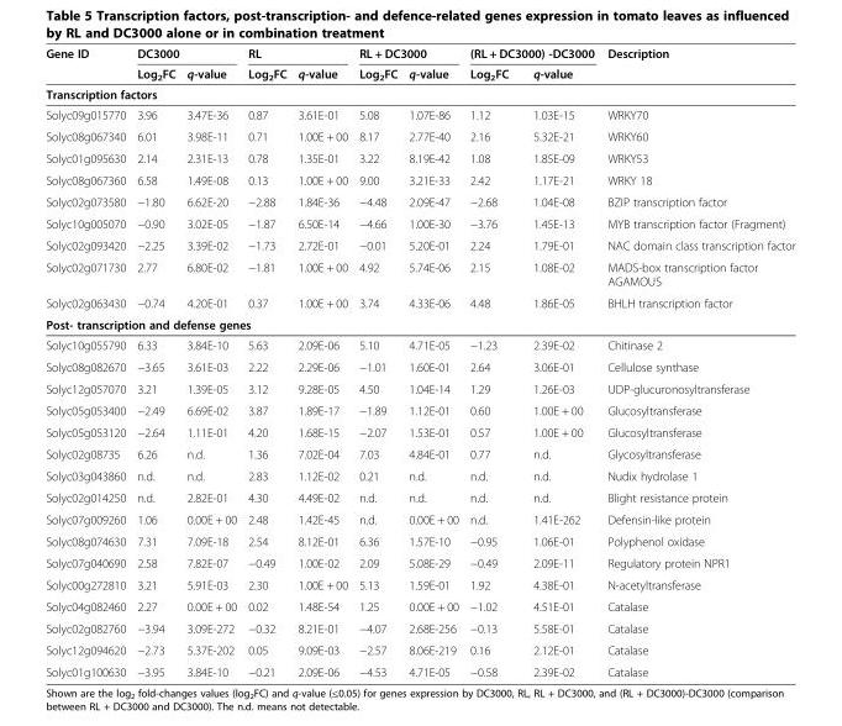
<table><thead><tr><td rowspan="2">Gene ID</td><td colspan="2">DC3000</td><td colspan="2">RL</td><td colspan="2">RL + DC3000</td><td colspan="2">(RL + DC3000) -DC3000</td><td rowspan="2">Description</td></tr><tr><td>Log<sub>2</sub>FC</td><td>q-value</td><td>Log<sub>2</sub>FC</td><td>q-value</td><td>Log<sub>2</sub>FC</td><td>q-value</td><td>Log<sub>2</sub>FC</td><td>q-value</td></tr></thead><tbody><tr><td colspan="10">Transcription factors</td></tr><tr><td>Solyc09g015770</td><td>3.96</td><td>3.47E-36</td><td>0.87</td><td>3.61E-01</td><td>5.08</td><td>1.07E-86</td><td>1.12</td><td>1.03E-15</td><td>WRKY70</td></tr><tr><td>Solyc08g067340</td><td>6.01</td><td>3.98E-11</td><td>0.71</td><td>1.00E + 00</td><td>8.17</td><td>2.77E-40</td><td>2.16</td><td>5.32E-21</td><td>WRKY60</td></tr><tr><td>Solyc01g095630</td><td>2.14</td><td>2.31E-13</td><td>0.78</td><td>1.35E-01</td><td>3.22</td><td>8.19E-42</td><td>1.08</td><td>1.85E-09</td><td>WRKY53</td></tr><tr><td>Solyc08g067360</td><td>6.58</td><td>1.49E-08</td><td>0.13</td><td>1.00E + 00</td><td>9.00</td><td>3.21E-33</td><td>2.42</td><td>1.17E-21</td><td>WRKY 18</td></tr><tr><td>Solyc02g073580</td><td>−1.80</td><td>6.62E-20</td><td>−2.88</td><td>1.84E-36</td><td>−4.48</td><td>2.09E-47</td><td>−2.68</td><td>1.04E-08</td><td>BZIP transcription factor</td></tr><tr><td>Solyc10g005070</td><td>−0.90</td><td>3.02E-05</td><td>−1.87</td><td>6.50E-14</td><td>−4.66</td><td>1.00E-30</td><td>−3.76</td><td>1.45E-13</td><td>MYB transcription factor (Fragment)</td></tr><tr><td>Solyc02g093420</td><td>−2.25</td><td>3.39E-02</td><td>−1.73</td><td>2.72E-01</td><td>−0.01</td><td>5.20E-01</td><td>2.24</td><td>1.79E-01</td><td>NAC domain class transcription factor</td></tr><tr><td>Solyc02g071730</td><td>2.77</td><td>6.80E-02</td><td>−1.81</td><td>1.00E + 00</td><td>4.92</td><td>5.74E-06</td><td>2.15</td><td>1.08E-02</td><td>MADS-box transcription factor AGAMOUS</td></tr><tr><td>Solyc02g063430</td><td>−0.74</td><td>4.20E-01</td><td>0.37</td><td>1.00E + 00</td><td>3.74</td><td>4.33E-06</td><td>4.48</td><td>1.86E-05</td><td>BHLH transcription factor</td></tr><tr><td colspan="10">Post- transcription and defense genes</td></tr><tr><td>Solyc10g055790</td><td>6.33</td><td>3.84E-10</td><td>5.63</td><td>2.09E-06</td><td>5.10</td><td>4.71E-05</td><td>−1.23</td><td>2.39E-02</td><td>Chitinase 2</td></tr><tr><td>Solyc08g082670</td><td>−3.65</td><td>3.61E-03</td><td>2.22</td><td>2.29E-06</td><td>−1.01</td><td>1.60E-01</td><td>2.64</td><td>3.06E-01</td><td>Cellulose synthase</td></tr><tr><td>Solyc12g057070</td><td>3.21</td><td>1.39E-05</td><td>3.12</td><td>9.28E-05</td><td>4.50</td><td>1.04E-14</td><td>1.29</td><td>1.26E-03</td><td>UDP-glucuronosyltransferase</td></tr><tr><td>Solyc05g053400</td><td>−2.49</td><td>6.69E-02</td><td>3.87</td><td>1.89E-17</td><td>−1.89</td><td>1.12E-01</td><td>0.60</td><td>1.00E + 00</td><td>Glucosyltransferase</td></tr><tr><td>Solyc05g053120</td><td>−2.64</td><td>1.11E-01</td><td>4.20</td><td>1.68E-15</td><td>−2.07</td><td>1.53E-01</td><td>0.57</td><td>1.00E + 00</td><td>Glucosyltransferase</td></tr><tr><td>Solyc02g08735</td><td>6.26</td><td>n.d.</td><td>1.36</td><td>7.02E-04</td><td>7.03</td><td>4.84E-01</td><td>0.77</td><td>n.d.</td><td>Glycosyltransferase</td></tr><tr><td>Solyc03g043860</td><td>n.d.</td><td>n.d.</td><td>2.83</td><td>1.12E-02</td><td>0.21</td><td>n.d.</td><td>n.d.</td><td>n.d.</td><td>Nudix hydrolase 1</td></tr><tr><td>Solyc02g014250</td><td>n.d.</td><td>2.82E-01</td><td>4.30</td><td>4.49E-02</td><td>n.d.</td><td>n.d.</td><td>n.d.</td><td>n.d.</td><td>Blight resistance protein</td></tr><tr><td>Solyc07g009260</td><td>1.06</td><td>0.00E + 00</td><td>2.48</td><td>1.42E-45</td><td>n.d.</td><td>0.00E + 00</td><td>n.d.</td><td>1.41E-262</td><td>Defensin-like protein</td></tr><tr><td>Solyc08g074630</td><td>7.31</td><td>7.09E-18</td><td>2.54</td><td>8.12E-01</td><td>6.36</td><td>1.57E-10</td><td>−0.95</td><td>1.06E-01</td><td>Polyphenol oxidase</td></tr><tr><td>Solyc07g040690</td><td>2.58</td><td>7.82E-07</td><td>−0.49</td><td>1.00E-02</td><td>2.09</td><td>5.08E-29</td><td>−0.49</td><td>2.09E-11</td><td>Regulatory protein NPR1</td></tr><tr><td>Solyc00g272810</td><td>3.21</td><td>5.91E-03</td><td>2.30</td><td>1.00E + 00</td><td>5.13</td><td>1.59E-01</td><td>1.92</td><td>4.38E-01</td><td>N-acetyltransferase</td></tr><tr><td>Solyc04g082460</td><td>2.27</td><td>0.00E + 00</td><td>0.02</td><td>1.48E-54</td><td>1.25</td><td>0.00E + 00</td><td>−1.02</td><td>4.51E-01</td><td>Catalase</td></tr><tr><td>Solyc02g082760</td><td>−3.94</td><td>3.09E-272</td><td>−0.32</td><td>8.21E-01</td><td>−4.07</td><td>2.68E-256</td><td>−0.13</td><td>5.58E-01</td><td>Catalase</td></tr><tr><td>Solyc12g094620</td><td>−2.73</td><td>5.37E-202</td><td>0.05</td><td>9.09E-03</td><td>−2.57</td><td>8.06E-219</td><td>0.16</td><td>2.12E-01</td><td>Catalase</td></tr><tr><td>Solyc01g100630</td><td>−3.95</td><td>3.84E-10</td><td>−0.21</td><td>2.09E-06</td><td>−4.53</td><td>4.71E-05</td><td>−0.58</td><td>2.39E-02</td><td>Catalase</td></tr></tbody></table>